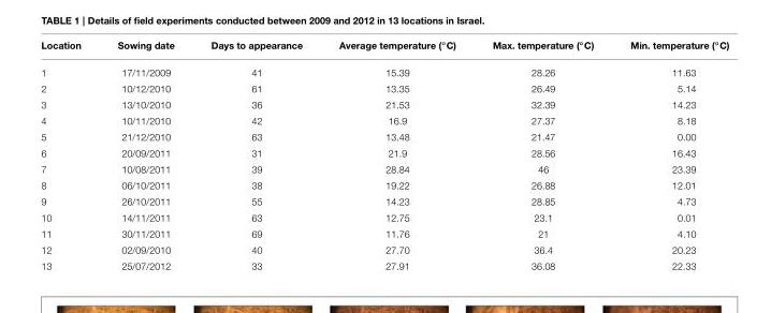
<table><thead><tr><td>Location</td><td>Sowing date</td><td>Days to appearance</td><td>Average temperature (◦C)</td><td>Max. temperature (◦C)</td><td>Min. temperature (◦C)</td></tr></thead><tbody><tr><td>1</td><td>17/11/2009</td><td>41</td><td>15.39</td><td>28.26</td><td>11.63</td></tr><tr><td>2</td><td>10/12/2010</td><td>61</td><td>13.35</td><td>26.49</td><td>5.14</td></tr><tr><td>3</td><td>13/10/2010</td><td>36</td><td>21.53</td><td>32.39</td><td>14.23</td></tr><tr><td>4</td><td>10/11/2010</td><td>42</td><td>16.9</td><td>27.37</td><td>8.18</td></tr><tr><td>5</td><td>21/12/2010</td><td>63</td><td>13.48</td><td>21.47</td><td>0.00</td></tr><tr><td>6</td><td>20/09/2011</td><td>31</td><td>21.9</td><td>28.56</td><td>16.43</td></tr><tr><td>7</td><td>10/08/2011</td><td>39</td><td>28.84</td><td>46</td><td>23.39</td></tr><tr><td>8</td><td>06/10/2011</td><td>38</td><td>19.22</td><td>26.88</td><td>12.01</td></tr><tr><td>9</td><td>26/10/2011</td><td>55</td><td>14.23</td><td>28.85</td><td>4.73</td></tr><tr><td>10</td><td>14/11/2011</td><td>63</td><td>12.75</td><td>23.1</td><td>0.01</td></tr><tr><td>11</td><td>30/11/2011</td><td>69</td><td>11.76</td><td>21</td><td>4.10</td></tr><tr><td>12</td><td>02/09/2010</td><td>40</td><td>27.70</td><td>36.4</td><td>20.23</td></tr><tr><td>13</td><td>25/07/2012</td><td>33</td><td>27.91</td><td>36.08</td><td>22.33</td></tr></tbody></table>